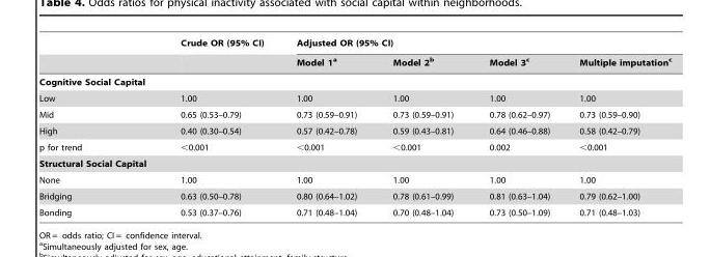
<table><thead><tr><td rowspan="2"></td><td rowspan="2">Crude OR (95% CI)</td><td colspan="4">Adjusted OR (95% CI)</td></tr><tr><td>Model 1<sup>a</sup></td><td>Model 2<sup>b</sup></td><td>Model 3<sup>c</sup></td><td>Multiple imputation<sup>c</sup></td></tr></thead><tbody><tr><td colspan="6">Cognitive Social Capital</td></tr><tr><td>Low</td><td>1.00</td><td>1.00</td><td>1.00</td><td>1.00</td><td>1.00</td></tr><tr><td>Mid</td><td>0.65 (0.53–0.79)</td><td>0.73 (0.59–0.91)</td><td>0.73 (0.59–0.91)</td><td>0.78 (0.62–0.97)</td><td>0.73 (0.59–0.90)</td></tr><tr><td>High</td><td>0.40 (0.30–0.54)</td><td>0.57 (0.42–0.78)</td><td>0.59 (0.43–0.81)</td><td>0.64 (0.46–0.88)</td><td>0.58 (0.42–0.79)</td></tr><tr><td>p for trend</td><td>&lt;0.001</td><td>&lt;0.001</td><td>&lt;0.001</td><td>0.002</td><td>&lt;0.001</td></tr><tr><td colspan="6">Structural Social Capital</td></tr><tr><td>None</td><td>1.00</td><td>1.00</td><td>1.00</td><td>1.00</td><td>1.00</td></tr><tr><td>Bridging</td><td>0.63 (0.50–0.78)</td><td>0.80 (0.64–1.02)</td><td>0.78 (0.61–0.99)</td><td>0.81 (0.63–1.04)</td><td>0.79 (0.62–1.00)</td></tr><tr><td>Bonding</td><td>0.53 (0.37–0.76)</td><td>0.71 (0.48–1.04)</td><td>0.70 (0.48–1.04)</td><td>0.73 (0.50–1.09)</td><td>0.71 (0.48–1.03)</td></tr></tbody></table>